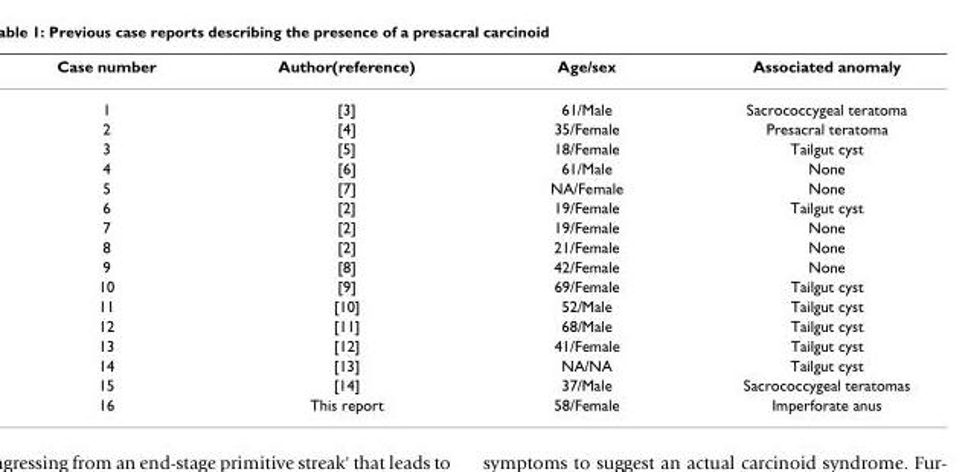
<table><thead><tr><td>Case number</td><td>Author(reference)</td><td>Age/sex</td><td>Associated anomaly</td></tr></thead><tbody><tr><td>1</td><td>[3]</td><td>61/Male</td><td>Sacrococcygeal teratoma</td></tr><tr><td>2</td><td>[4]</td><td>35/Female</td><td>Presacral teratoma</td></tr><tr><td>3</td><td>[5]</td><td>18/Female</td><td>Tailgut cyst</td></tr><tr><td>4</td><td>[6]</td><td>61/Male</td><td>None</td></tr><tr><td>5</td><td>[7]</td><td>NA/Female</td><td>None</td></tr><tr><td>6</td><td>[2]</td><td>19/Female</td><td>Tailgut cyst</td></tr><tr><td>7</td><td>[2]</td><td>19/Female</td><td>None</td></tr><tr><td>8</td><td>[2]</td><td>21/Female</td><td>None</td></tr><tr><td>9</td><td>[8]</td><td>42/Female</td><td>None</td></tr><tr><td>10</td><td>[9]</td><td>69/Female</td><td>Tailgut cyst</td></tr><tr><td>11</td><td>[10]</td><td>52/Male</td><td>Tailgut cyst</td></tr><tr><td>12</td><td>[11]</td><td>68/Male</td><td>Tailgut cyst</td></tr><tr><td>13</td><td>[12]</td><td>41/Female</td><td>Tailgut cyst</td></tr><tr><td>14</td><td>[13]</td><td>NA/NA</td><td>Tailgut cyst</td></tr><tr><td>15</td><td>[14]</td><td>37/Male</td><td>Sacrococcygeal teratomas</td></tr><tr><td>16</td><td>This report</td><td>58/Female</td><td>Imperforate anus</td></tr></tbody></table>